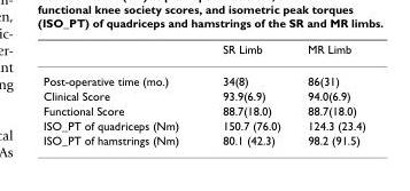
<table><thead><tr><td></td><td>SR Limb</td><td>MR Limb</td></tr></thead><tbody><tr><td>Post-operative time (mo.)</td><td>34(8)</td><td>86(31)</td></tr><tr><td>Clinical Score</td><td>93.9(6.9)</td><td>94.0(6.9)</td></tr><tr><td>Functional Score</td><td>88.7(18.0)</td><td>88.7(18.0)</td></tr><tr><td>ISO_PT of quadriceps (Nm)</td><td>150.7 (76.0)</td><td>124.3 (23.4)</td></tr><tr><td>ISO_PT of hamstrings (Nm)</td><td>80.1 (42.3)</td><td>98.2 (91.5)</td></tr></tbody></table>